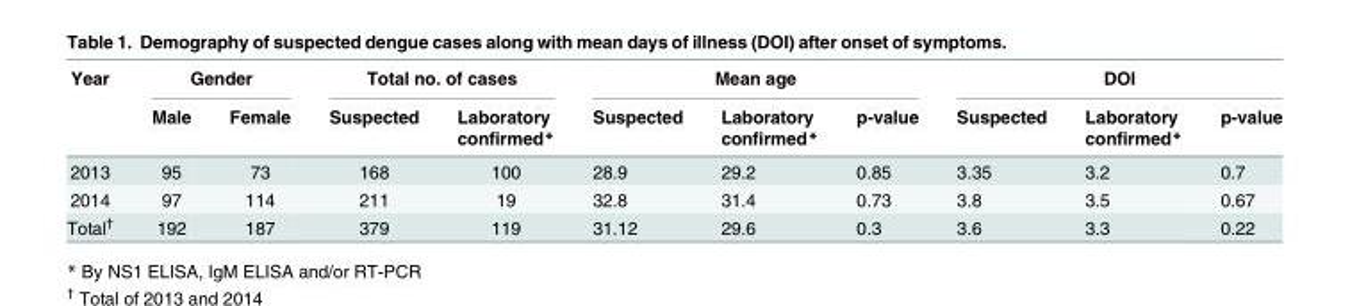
<table><thead><tr><td rowspan="2">Year</td><td colspan="2">Gender</td><td colspan="2">Total no. of cases</td><td colspan="3">Mean age</td><td colspan="3">DOI</td></tr><tr><td>Male</td><td>Female</td><td>Suspected</td><td>Laboratory confirmed*</td><td>Suspected</td><td>Laboratory confirmed*</td><td>p-value</td><td>Suspected</td><td>Laboratory confirmed*</td><td>p-value</td></tr></thead><tbody><tr><td>2013</td><td>95</td><td>73</td><td>168</td><td>100</td><td>28.9</td><td>29.2</td><td>0.85</td><td>3.35</td><td>3.2</td><td>0.7</td></tr><tr><td>2014</td><td>97</td><td>114</td><td>211</td><td>19</td><td>32.8</td><td>31.4</td><td>0.73</td><td>3.8</td><td>3.5</td><td>0.67</td></tr><tr><td>Total<sup>†</sup></td><td>192</td><td>187</td><td>379</td><td>119</td><td>31.12</td><td>29.6</td><td>0.3</td><td>3.6</td><td>3.3</td><td>0.22</td></tr></tbody></table>